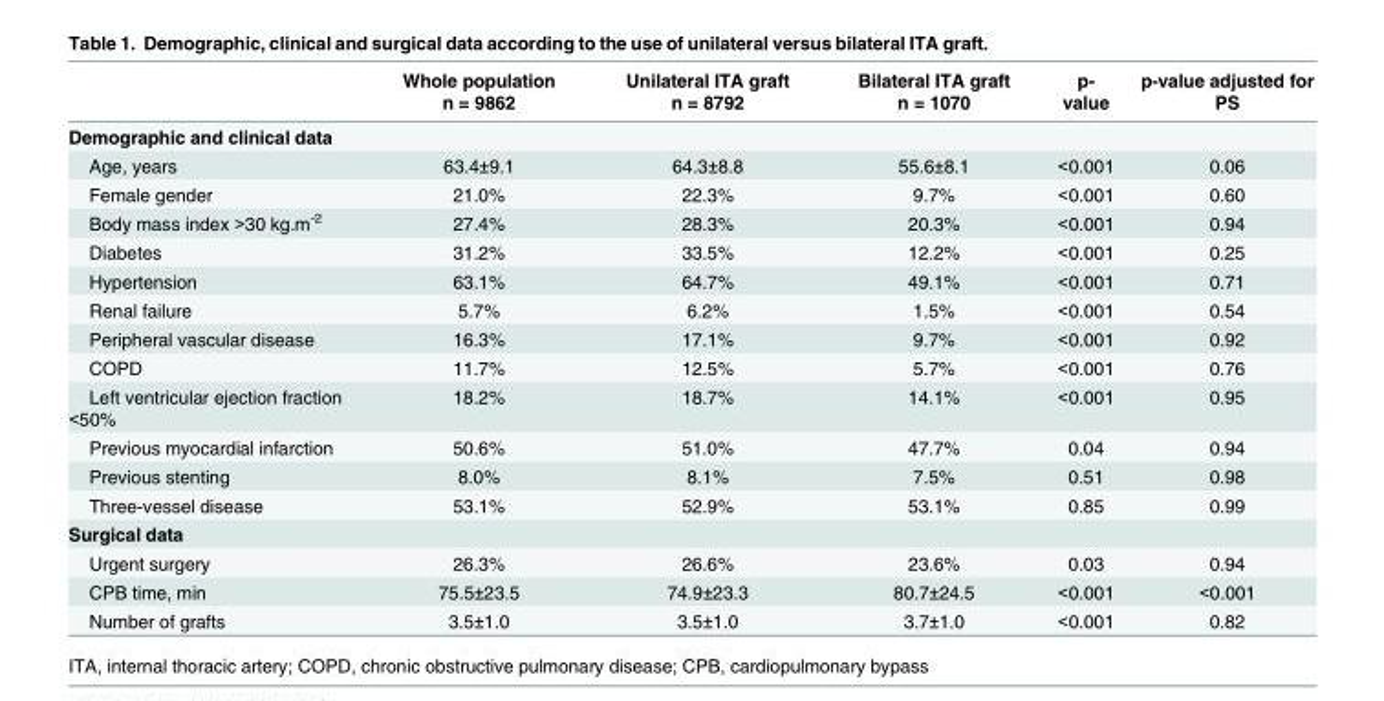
<table><thead><tr><td></td><td>Whole population n = 9862</td><td>Unilateral ITA graft n = 8792</td><td>Bilateral ITA graft n = 1070</td><td>p- value</td><td>p-value adjusted for PS</td></tr></thead><tbody><tr><td colspan="6">Demographic and clinical data</td></tr><tr><td>Age, years</td><td>63.4±9.1</td><td>64.3±8.8</td><td>55.6±8.1</td><td>&lt;0.001</td><td>0.06</td></tr><tr><td>Female gender</td><td>21.0%</td><td>22.3%</td><td>9.7%</td><td>&lt;0.001</td><td>0.60</td></tr><tr><td>Body mass index &gt;30 kg.m<sup>-2</sup></td><td>27.4%</td><td>28.3%</td><td>20.3%</td><td>&lt;0.001</td><td>0.94</td></tr><tr><td>Diabetes</td><td>31.2%</td><td>33.5%</td><td>12.2%</td><td>&lt;0.001</td><td>0.25</td></tr><tr><td>Hypertension</td><td>63.1%</td><td>64.7%</td><td>49.1%</td><td>&lt;0.001</td><td>0.71</td></tr><tr><td>Renal failure</td><td>5.7%</td><td>6.2%</td><td>1.5%</td><td>&lt;0.001</td><td>0.54</td></tr><tr><td>Peripheral vascular disease</td><td>16.3%</td><td>17.1%</td><td>9.7%</td><td>&lt;0.001</td><td>0.92</td></tr><tr><td>COPD</td><td>11.7%</td><td>12.5%</td><td>5.7%</td><td>&lt;0.001</td><td>0.76</td></tr><tr><td>Left ventricular ejection fraction &lt;50%</td><td>18.2%</td><td>18.7%</td><td>14.1%</td><td>&lt;0.001</td><td>0.95</td></tr><tr><td>Previous myocardial infarction</td><td>50.6%</td><td>51.0%</td><td>47.7%</td><td>0.04</td><td>0.94</td></tr><tr><td>Previous stenting</td><td>8.0%</td><td>8.1%</td><td>7.5%</td><td>0.51</td><td>0.98</td></tr><tr><td>Three-vessel disease</td><td>53.1%</td><td>52.9%</td><td>53.1%</td><td>0.85</td><td>0.99</td></tr><tr><td colspan="6">Surgical data</td></tr><tr><td>Urgent surgery</td><td>26.3%</td><td>26.6%</td><td>23.6%</td><td>0.03</td><td>0.94</td></tr><tr><td>CPB time, min</td><td>75.5±23.5</td><td>74.9±23.3</td><td>80.7±24.5</td><td>&lt;0.001</td><td>&lt;0.001</td></tr><tr><td>Number of grafts</td><td>3.5±1.0</td><td>3.5±1.0</td><td>3.7±1.0</td><td>&lt;0.001</td><td>0.82</td></tr></tbody></table>